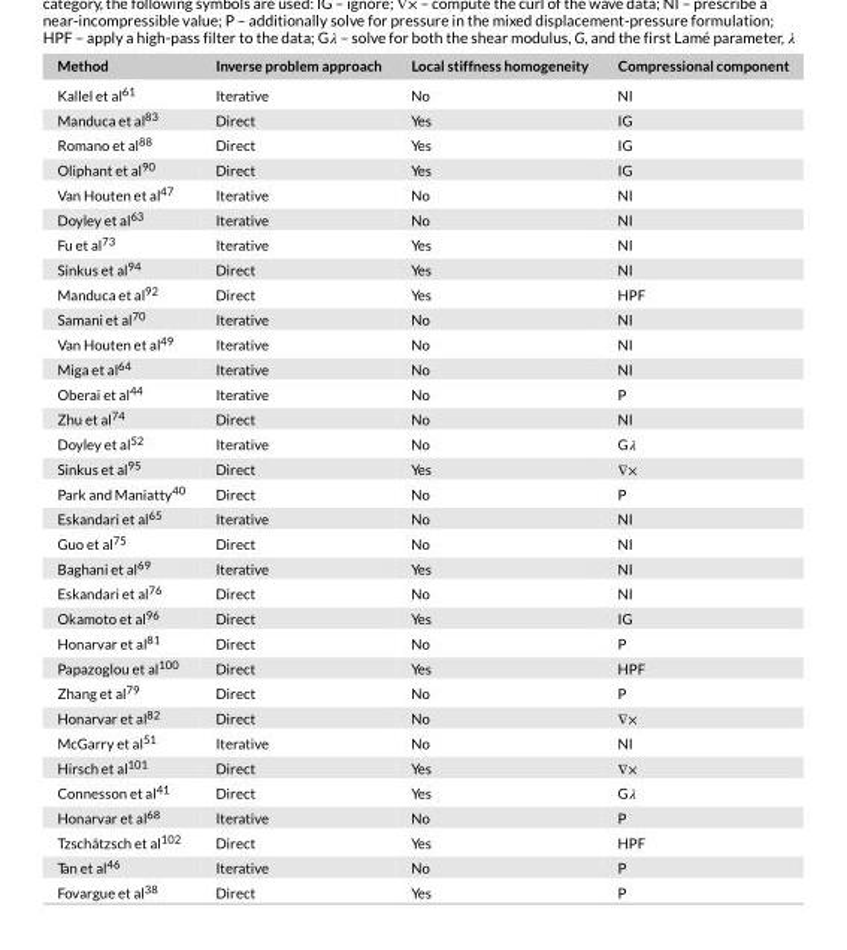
<table><thead><tr><td>Method</td><td>Inverse problem approach</td><td>Local stiffness homogeneity</td><td>Compressional component</td></tr></thead><tbody><tr><td>Kallel et al<sup>61</sup></td><td>Iterative</td><td>No</td><td>NI</td></tr><tr><td>Manduca et al<sup>83</sup></td><td>Direct</td><td>Yes</td><td>IG</td></tr><tr><td>Romano et al<sup>88</sup></td><td>Direct</td><td>Yes</td><td>IG</td></tr><tr><td>Oliphant et al<sup>90</sup></td><td>Direct</td><td>Yes</td><td>IG</td></tr><tr><td>Van Houten et al<sup>47</sup></td><td>Iterative</td><td>No</td><td>NI</td></tr><tr><td>Doyley et al<sup>63</sup></td><td>Iterative</td><td>No</td><td>NI</td></tr><tr><td>Fu et al<sup>73</sup></td><td>Iterative</td><td>Yes</td><td>NI</td></tr><tr><td>Sinkus et al<sup>94</sup></td><td>Direct</td><td>Yes</td><td>NI</td></tr><tr><td>Manduca et al<sup>92</sup></td><td>Direct</td><td>Yes</td><td>HPF</td></tr><tr><td>Samani et al<sup>70</sup></td><td>Iterative</td><td>No</td><td>NI</td></tr><tr><td>Van Houten et al<sup>49</sup></td><td>Iterative</td><td>No</td><td>NI</td></tr><tr><td>Miga et al<sup>64</sup></td><td>Iterative</td><td>No</td><td>NI</td></tr><tr><td>Oberai et al<sup>44</sup></td><td>Iterative</td><td>No</td><td>P</td></tr><tr><td>Zhu et al<sup>74</sup></td><td>Direct</td><td>No</td><td>NI</td></tr><tr><td>Doyley et al<sup>52</sup></td><td>Iterative</td><td>No</td><td>G𝜆</td></tr><tr><td>Sinkus et al<sup>95</sup></td><td>Direct</td><td>Yes</td><td>∇×</td></tr><tr><td>Park and Maniatty<sup>40</sup></td><td>Direct</td><td>No</td><td>P</td></tr><tr><td>Eskandari et al<sup>65</sup></td><td>Iterative</td><td>No</td><td>NI</td></tr><tr><td>Guo et al<sup>75</sup></td><td>Direct</td><td>No</td><td>NI</td></tr><tr><td>Baghani et al<sup>69</sup></td><td>Iterative</td><td>Yes</td><td>NI</td></tr><tr><td>Eskandari et al<sup>76</sup></td><td>Direct</td><td>No</td><td>NI</td></tr><tr><td>Okamoto et al<sup>96</sup></td><td>Direct</td><td>Yes</td><td>IG</td></tr><tr><td>Honarvar et al<sup>81</sup></td><td>Direct</td><td>No</td><td>P</td></tr><tr><td>Papazoglou et al<sup>100</sup></td><td>Direct</td><td>Yes</td><td>HPF</td></tr><tr><td>Zhang et al<sup>79</sup></td><td>Direct</td><td>No</td><td>P</td></tr><tr><td>Honarvar et al<sup>82</sup></td><td>Direct</td><td>No</td><td>∇×</td></tr><tr><td>McGarry et al<sup>51</sup></td><td>Iterative</td><td>No</td><td>NI</td></tr><tr><td>Hirsch et al<sup>101</sup></td><td>Direct</td><td>Yes</td><td>∇×</td></tr><tr><td>Connesson et al<sup>41</sup></td><td>Direct</td><td>Yes</td><td>G𝜆</td></tr><tr><td>Honarvar et al<sup>68</sup></td><td>Iterative</td><td>No</td><td>P</td></tr><tr><td>Tzschätzsch et al<sup>102</sup></td><td>Direct</td><td>Yes</td><td>HPF</td></tr><tr><td>Tan et al<sup>46</sup></td><td>Iterative</td><td>No</td><td>P</td></tr><tr><td>Fovargue et al<sup>38</sup></td><td>Direct</td><td>Yes</td><td>P</td></tr></tbody></table>